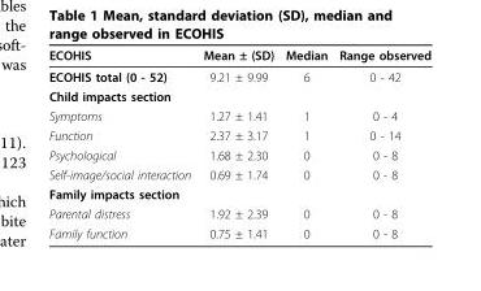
<table><thead><tr><td>ECOHIS</td><td>Mean ± (SD)</td><td>Median</td><td>Range observed</td></tr></thead><tbody><tr><td>ECOHIS total (0 - 52)</td><td>9.21 ± 9.99</td><td>6</td><td>0 - 42</td></tr><tr><td colspan="4">Child impacts section</td></tr><tr><td>Symptoms</td><td>1.27 ± 1.41</td><td>1</td><td>0 - 4</td></tr><tr><td>Function</td><td>2.37 ± 3.17</td><td>1</td><td>0 - 14</td></tr><tr><td>Psychological</td><td>1.68 ± 2.30</td><td>0</td><td>0 - 8</td></tr><tr><td>Self-image/social interaction</td><td>0.69 ± 1.74</td><td>0</td><td>0 - 8</td></tr><tr><td colspan="4">Family impacts section</td></tr><tr><td>Parental distress</td><td>1.92 ± 2.39</td><td>0</td><td>0 - 8</td></tr><tr><td>Family function</td><td>0.75 ± 1.41</td><td>0</td><td>0 - 8</td></tr></tbody></table>